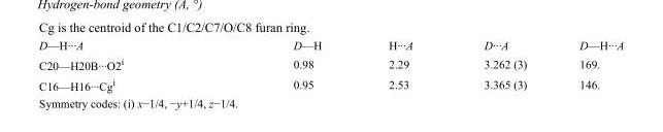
<table><tbody><tr><td>D—H···A</td><td>D—H</td><td>H···A</td><td>D···A</td><td>D—H···A</td></tr><tr><td>C20—H20B···O2<sup>i</sup></td><td>0.98</td><td>2.29</td><td>3.262 (3)</td><td>169.</td></tr><tr><td>C16—H16···Cg<sup>i</sup></td><td>0.95</td><td>2.53</td><td>3.365 (3)</td><td>146.</td></tr></tbody></table>